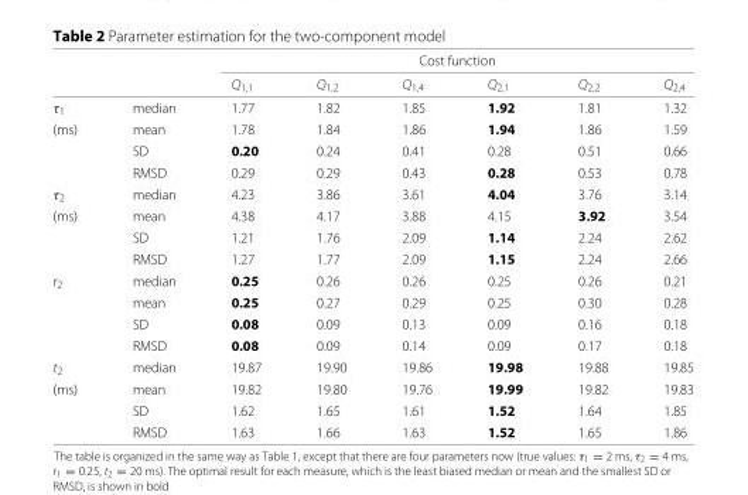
<table><thead><tr><td rowspan="2"></td><td rowspan="2"></td><td colspan="6">Cost function</td></tr><tr><td>Q<sub>1,1</sub></td><td>Q<sub>1,2</sub></td><td>Q<sub>1,4</sub></td><td>Q<sub>2,1</sub></td><td>Q<sub>2,2</sub></td><td>Q<sub>2,4</sub></td></tr></thead><tbody><tr><td>τ<sub>1</sub></td><td>median</td><td>1.77</td><td>1.82</td><td>1.85</td><td>1.92</td><td>1.81</td><td>1.32</td></tr><tr><td rowspan="3">(ms)</td><td>mean</td><td>1.78</td><td>1.84</td><td>1.86</td><td>1.94</td><td>1.86</td><td>1.59</td></tr><tr><td>SD</td><td>0.20</td><td>0.24</td><td>0.41</td><td>0.28</td><td>0.51</td><td>0.66</td></tr><tr><td>RMSD</td><td>0.29</td><td>0.29</td><td>0.43</td><td>0.28</td><td>0.53</td><td>0.78</td></tr><tr><td>τ<sub>2</sub></td><td>median</td><td>4.23</td><td>3.86</td><td>3.61</td><td>4.04</td><td>3.76</td><td>3.14</td></tr><tr><td rowspan="3">(ms)</td><td>mean</td><td>4.38</td><td>4.17</td><td>3.88</td><td>4.15</td><td>3.92</td><td>3.54</td></tr><tr><td>SD</td><td>1.21</td><td>1.76</td><td>2.09</td><td>1.14</td><td>2.24</td><td>2.62</td></tr><tr><td>RMSD</td><td>1.27</td><td>1.77</td><td>2.09</td><td>1.15</td><td>2.24</td><td>2.66</td></tr><tr><td rowspan="4">r<sub>2</sub></td><td>median</td><td>0.25</td><td>0.26</td><td>0.26</td><td>0.25</td><td>0.26</td><td>0.21</td></tr><tr><td>mean</td><td>0.25</td><td>0.27</td><td>0.29</td><td>0.25</td><td>0.30</td><td>0.28</td></tr><tr><td>SD</td><td>0.08</td><td>0.09</td><td>0.13</td><td>0.09</td><td>0.16</td><td>0.18</td></tr><tr><td>RMSD</td><td>0.08</td><td>0.09</td><td>0.14</td><td>0.09</td><td>0.17</td><td>0.18</td></tr><tr><td>t<sub>2</sub></td><td>median</td><td>19.87</td><td>19.90</td><td>19.86</td><td>19.98</td><td>19.88</td><td>19.85</td></tr><tr><td rowspan="3">(ms)</td><td>mean</td><td>19.82</td><td>19.80</td><td>19.76</td><td>19.99</td><td>19.82</td><td>19.83</td></tr><tr><td>SD</td><td>1.62</td><td>1.65</td><td>1.61</td><td>1.52</td><td>1.64</td><td>1.85</td></tr><tr><td>RMSD</td><td>1.63</td><td>1.66</td><td>1.63</td><td>1.52</td><td>1.65</td><td>1.86</td></tr></tbody></table>